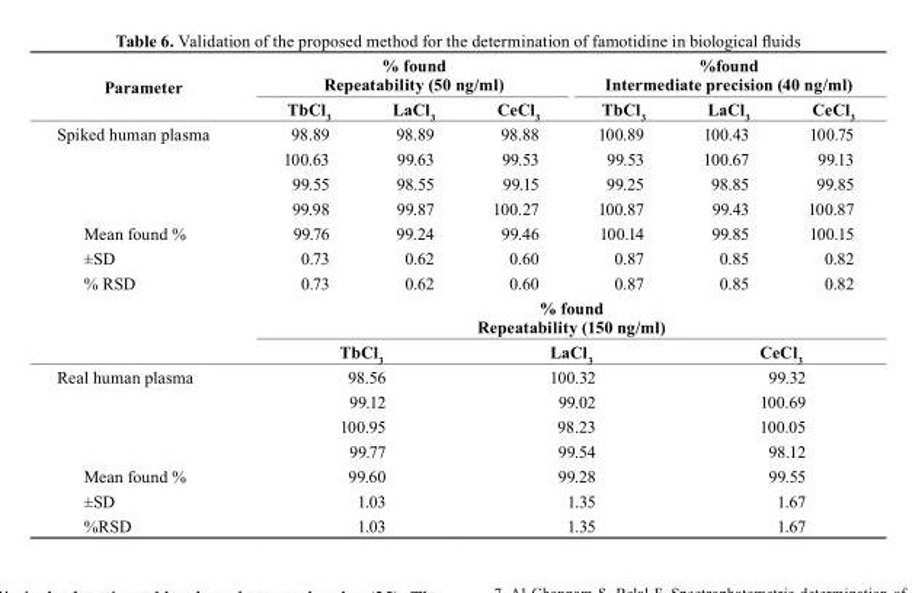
<table><thead><tr><td rowspan="2">parameter</td><td colspan="3">% found repeatability (50 ng/ml)</td><td colspan="3">%found Intermediate precision (40 ng/ml)</td></tr><tr><td>TbCl<sub>3</sub></td><td>LaCl3</td><td>cecl<sub>3</sub></td><td>TbCl3</td><td>LaCl3</td><td>cecl3</td></tr></thead><tbody><tr><td rowspan="4">Spiked human plasma</td><td>98.89</td><td>98.89</td><td>98.88</td><td>100.89</td><td>100.43</td><td>100.75</td></tr><tr><td>100.63</td><td>99.63</td><td>99.53</td><td>99.53</td><td>100.67</td><td>99.13</td></tr><tr><td>99.55</td><td>98.55</td><td>99.15</td><td>99.25</td><td>98.85</td><td>99.85</td></tr><tr><td>99.98</td><td>99.87</td><td>100.27</td><td>100.87</td><td>99.43</td><td>100.87</td></tr><tr><td>Mean found %</td><td>99.76</td><td>99.24</td><td>99.46</td><td>100.14</td><td>99.85</td><td>100.15</td></tr><tr><td>±SD</td><td>0.73</td><td>0.62</td><td>0.60</td><td>0.87</td><td>0.85</td><td>0.82</td></tr><tr><td rowspan="3">% RSD</td><td>0.73</td><td>0.62</td><td>0.60</td><td>0.87</td><td>0.85</td><td>0.82</td></tr><tr><td colspan="6">% found repeatability (150 ng/ml)</td></tr><tr><td colspan="2">TbCl<sub>3</sub></td><td colspan="2">LaCl3</td><td colspan="2">cecl<sub>3</sub></td></tr><tr><td rowspan="4">Real human plasma</td><td colspan="2">98.56</td><td colspan="2">100.32</td><td colspan="2">99.32</td></tr><tr><td colspan="2">99.12</td><td colspan="2">99.02</td><td colspan="2">100.69</td></tr><tr><td colspan="2">100.95</td><td colspan="2">98.23</td><td colspan="2">100.05</td></tr><tr><td colspan="2">99.77</td><td colspan="2">99.54</td><td colspan="2">98.12</td></tr><tr><td>Mean found %</td><td colspan="2">99.60</td><td colspan="2">99.28</td><td colspan="2">99.55</td></tr><tr><td>±SD</td><td colspan="2">1.03</td><td colspan="2">1.35</td><td colspan="2">1.67</td></tr><tr><td>%RSD</td><td colspan="2">1.03</td><td colspan="2">1.35</td><td colspan="2">1.67</td></tr></tbody></table>